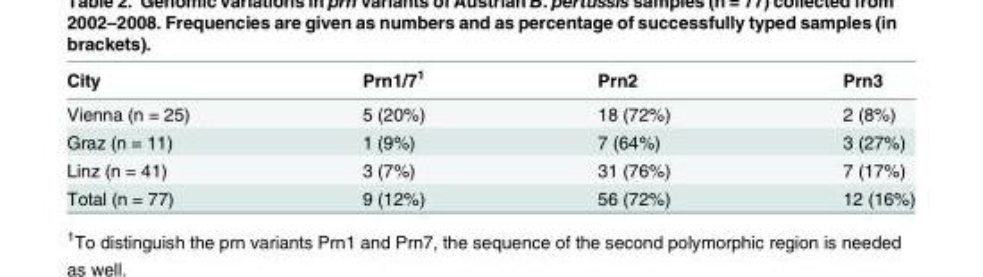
<table><thead><tr><td>City</td><td>Prn1/7<sup>1</sup></td><td>Prn2</td><td>Prn3</td></tr></thead><tbody><tr><td>Vienna (n = 25)</td><td>5 (20%)</td><td>18 (72%)</td><td>2 (8%)</td></tr><tr><td>Graz (n = 11)</td><td>1 (9%)</td><td>7 (64%)</td><td>3 (27%)</td></tr><tr><td>Linz (n = 41)</td><td>3 (7%)</td><td>31 (76%)</td><td>7 (17%)</td></tr><tr><td>Total (n = 77)</td><td>9 (12%)</td><td>56 (72%)</td><td>12 (16%)</td></tr></tbody></table>